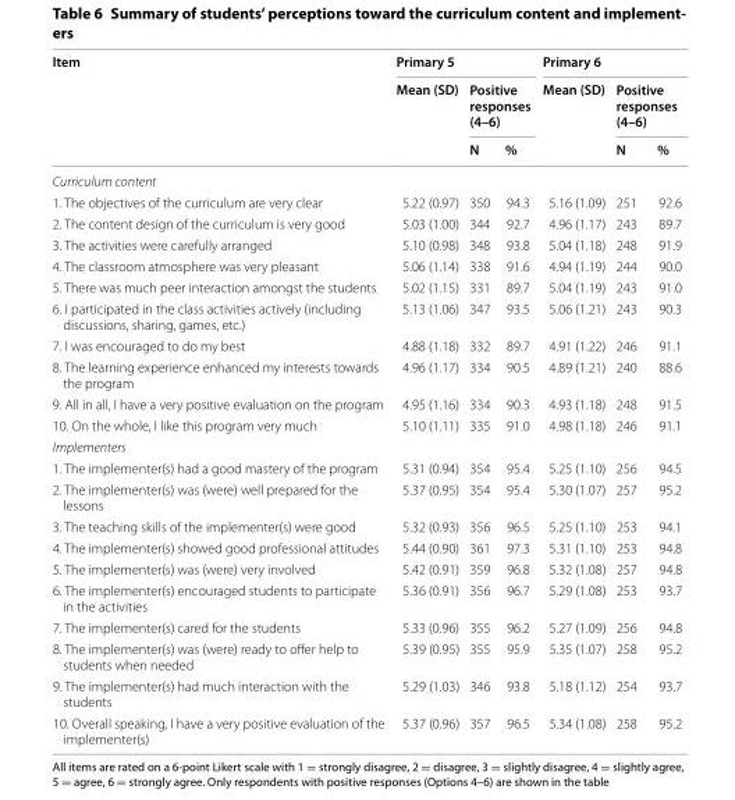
<table><thead><tr><td rowspan="3">Item</td><td colspan="3">Primary 5</td><td colspan="3">Primary 6</td></tr><tr><td rowspan="2">Mean (SD)</td><td colspan="2">Positive responses (4–6)</td><td rowspan="2">Mean (SD)</td><td colspan="2">Positive responses (4–6)</td></tr><tr><td>N</td><td>%</td><td>N</td><td>%</td></tr></thead><tbody><tr><td colspan="7">Curriculum content</td></tr><tr><td>1. The objectives of the curriculum are very clear</td><td>5.22 (0.97)</td><td>350</td><td>94.3</td><td>5.16 (1.09)</td><td>251</td><td>92.6</td></tr><tr><td>2. The content design of the curriculum is very good</td><td>5.03 (1.00)</td><td>344</td><td>92.7</td><td>4.96 (1.17)</td><td>243</td><td>89.7</td></tr><tr><td>3. The activities were carefully arranged</td><td>5.10 (0.98)</td><td>348</td><td>93.8</td><td>5.04 (1.18)</td><td>248</td><td>91.9</td></tr><tr><td>4. The classroom atmosphere was very pleasant</td><td>5.06 (1.14)</td><td>338</td><td>91.6</td><td>4.94 (1.19)</td><td>244</td><td>90.0</td></tr><tr><td>5. There was much peer interaction amongst the students</td><td>5.02 (1.15)</td><td>331</td><td>89.7</td><td>5.04 (1.19)</td><td>243</td><td>91.0</td></tr><tr><td>6. I participated in the class activities actively (including discussions, sharing, games, etc.)</td><td>5.13 (1.06)</td><td>347</td><td>93.5</td><td>5.06 (1.21)</td><td>243</td><td>90.3</td></tr><tr><td>7. I was encouraged to do my best</td><td>4.88 (1.18)</td><td>332</td><td>89.7</td><td>4.91 (1.22)</td><td>246</td><td>91.1</td></tr><tr><td>8. The learning experience enhanced my interests towards the program</td><td>4.96 (1.17)</td><td>334</td><td>90.5</td><td>4.89 (1.21)</td><td>240</td><td>88.6</td></tr><tr><td>9. All in all, I have a very positive evaluation on the program</td><td>4.95 (1.16)</td><td>334</td><td>90.3</td><td>4.93 (1.18)</td><td>248</td><td>91.5</td></tr><tr><td>10. On the whole, I like this program very much</td><td>5.10 (1.11)</td><td>335</td><td>91.0</td><td>4.98 (1.18)</td><td>246</td><td>91.1</td></tr><tr><td colspan="7">Implementers</td></tr><tr><td>1. The implementer(s) had a good mastery of the program</td><td>5.31 (0.94)</td><td>354</td><td>95.4</td><td>5.25 (1.10)</td><td>256</td><td>94.5</td></tr><tr><td>2. The implementer(s) was (were) well prepared for the lessons</td><td>5.37 (0.95)</td><td>354</td><td>95.4</td><td>5.30 (1.07)</td><td>257</td><td>95.2</td></tr><tr><td>3. The teaching skills of the implementer(s) were good</td><td>5.32 (0.93)</td><td>356</td><td>96.5</td><td>5.25 (1.10)</td><td>253</td><td>94.1</td></tr><tr><td>4. The implementer(s) showed good professional attitudes</td><td>5.44 (0.90)</td><td>361</td><td>97.3</td><td>5.31 (1.10)</td><td>253</td><td>94.8</td></tr><tr><td>5. The implementer(s) was (were) very involved</td><td>5.42 (0.91)</td><td>359</td><td>96.8</td><td>5.32 (1.08)</td><td>257</td><td>94.8</td></tr><tr><td>6. The implementer(s) encouraged students to participate in the activities</td><td>5.36 (0.91)</td><td>356</td><td>96.7</td><td>5.29 (1.08)</td><td>253</td><td>93.7</td></tr><tr><td>7. The implementer(s) cared for the students</td><td>5.33 (0.96)</td><td>355</td><td>96.2</td><td>5.27 (1.09)</td><td>256</td><td>94.8</td></tr><tr><td>8. The implementer(s) was (were) ready to offer help to students when needed</td><td>5.39 (0.95)</td><td>355</td><td>95.9</td><td>5.35 (1.07)</td><td>258</td><td>95.2</td></tr><tr><td>9. The implementer(s) had much interaction with the students</td><td>5.29 (1.03)</td><td>346</td><td>93.8</td><td>5.18 (1.12)</td><td>254</td><td>93.7</td></tr><tr><td>10. Overall speaking, I have a very positive evaluation of the implementer(s)</td><td>5.37 (0.96)</td><td>357</td><td>96.5</td><td>5.34 (1.08)</td><td>258</td><td>95.2</td></tr></tbody></table>